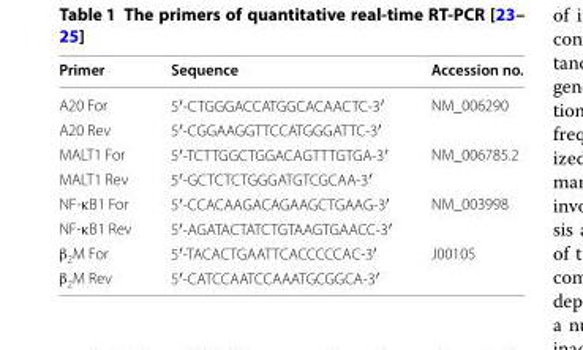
<table><thead><tr><td>Primer</td><td>Sequence</td><td>Accession no.</td></tr></thead><tbody><tr><td>A20 For</td><td>5′-CTGGGACCATGGCACAACTC-3′</td><td>NM_006290</td></tr><tr><td>A20 Rev</td><td>5′-CGGAAGGTTCCATGGGATTC-3′</td><td></td></tr><tr><td>MALT1 For</td><td>5′-TCTTGGCTGGACAGTTTGTGA-3′</td><td>NM_006785.2</td></tr><tr><td>MALT1 Rev</td><td>5′-GCTCTCTGGGATGTCGCAA-3′</td><td></td></tr><tr><td>NF-κB1 For</td><td>5′-CCACAAGACAGAAGCTGAAG-3′</td><td>NM_003998</td></tr><tr><td>NF-κB1 Rev</td><td>5′-AGATACTATCTGTAAGTGAACC-3′</td><td></td></tr><tr><td>β<sub>2</sub>M For</td><td>5′-TACACTGAATTCACCCCCAC-3′</td><td>J00105</td></tr><tr><td>β<sub>2</sub>M Rev</td><td>5′-CATCCAATCCAAATGCGGCA-3′</td><td></td></tr></tbody></table>